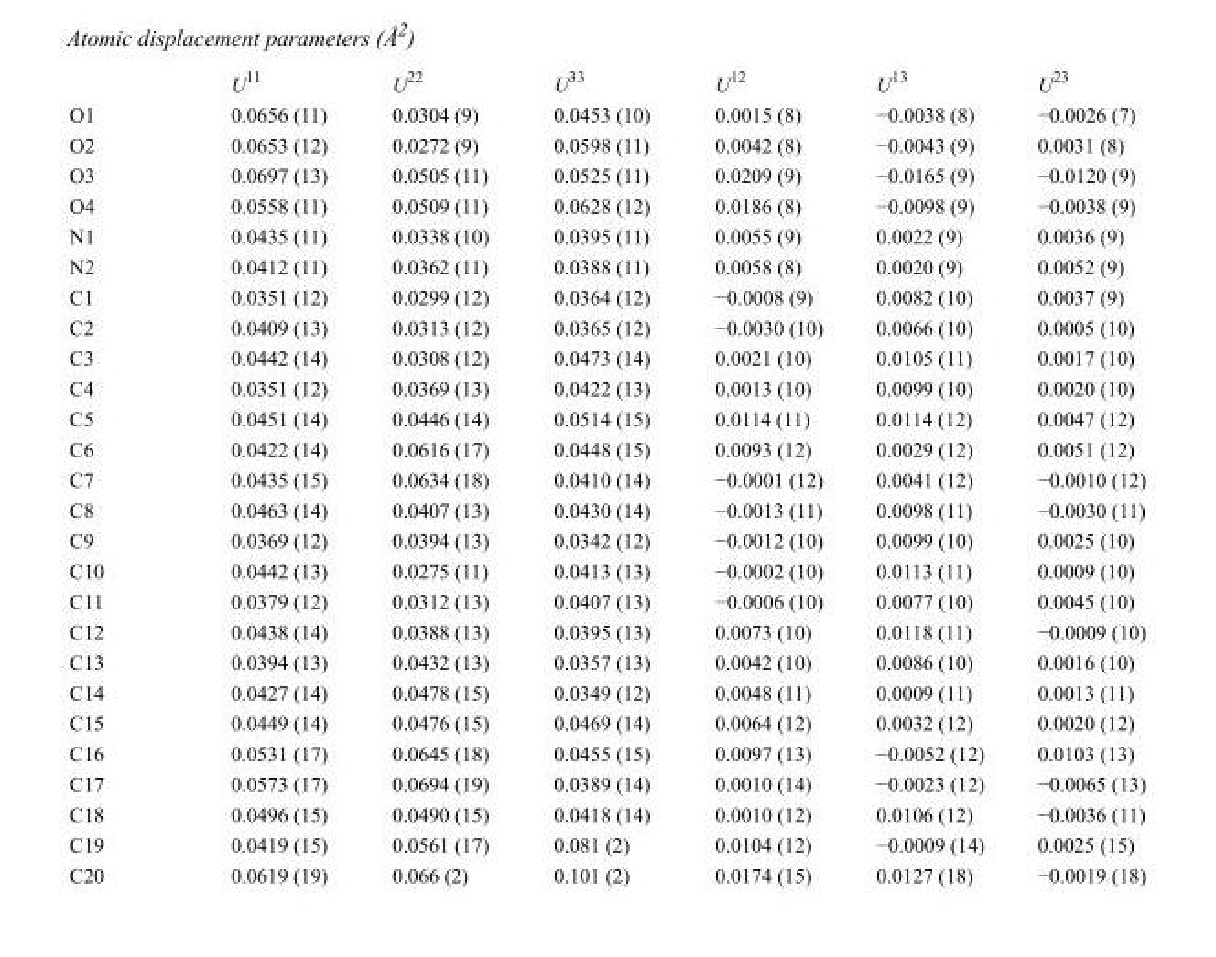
<table><thead><tr><td></td><td>U<sup>11</sup></td><td>U<sup>22</sup></td><td>U<sup>33</sup></td><td>U<sup>12</sup></td><td>U<sup>13</sup></td><td>U<sup>23</sup></td></tr></thead><tbody><tr><td>O1</td><td>0.0656 (11)</td><td>0.0304 (9)</td><td>0.0453 (10)</td><td>0.0015 (8)</td><td>−0.0038 (8)</td><td>−0.0026 (7)</td></tr><tr><td>O2</td><td>0.0653 (12)</td><td>0.0272 (9)</td><td>0.0598 (11)</td><td>0.0042 (8)</td><td>−0.0043 (9)</td><td>0.0031 (8)</td></tr><tr><td>O3</td><td>0.0697 (13)</td><td>0.0505 (11)</td><td>0.0525 (11)</td><td>0.0209 (9)</td><td>−0.0165 (9)</td><td>−0.0120 (9)</td></tr><tr><td>O4</td><td>0.0558 (11)</td><td>0.0509 (11)</td><td>0.0628 (12)</td><td>0.0186 (8)</td><td>−0.0098 (9)</td><td>−0.0038 (9)</td></tr><tr><td>N1</td><td>0.0435 (11)</td><td>0.0338 (10)</td><td>0.0395 (11)</td><td>0.0055 (9)</td><td>0.0022 (9)</td><td>0.0036 (9)</td></tr><tr><td>N2</td><td>0.0412 (11)</td><td>0.0362 (11)</td><td>0.0388 (11)</td><td>0.0058 (8)</td><td>0.0020 (9)</td><td>0.0052 (9)</td></tr><tr><td>C1</td><td>0.0351 (12)</td><td>0.0299 (12)</td><td>0.0364 (12)</td><td>−0.0008 (9)</td><td>0.0082 (10)</td><td>0.0037 (9)</td></tr><tr><td>C2</td><td>0.0409 (13)</td><td>0.0313 (12)</td><td>0.0365 (12)</td><td>−0.0030 (10)</td><td>0.0066 (10)</td><td>0.0005 (10)</td></tr><tr><td>C3</td><td>0.0442 (14)</td><td>0.0308 (12)</td><td>0.0473 (14)</td><td>0.0021 (10)</td><td>0.0105 (11)</td><td>0.0017 (10)</td></tr><tr><td>C4</td><td>0.0351 (12)</td><td>0.0369 (13)</td><td>0.0422 (13)</td><td>0.0013 (10)</td><td>0.0099 (10)</td><td>0.0020 (10)</td></tr><tr><td>C5</td><td>0.0451 (14)</td><td>0.0446 (14)</td><td>0.0514 (15)</td><td>0.0114 (11)</td><td>0.0114 (12)</td><td>0.0047 (12)</td></tr><tr><td>C6</td><td>0.0422 (14)</td><td>0.0616 (17)</td><td>0.0448 (15)</td><td>0.0093 (12)</td><td>0.0029 (12)</td><td>0.0051 (12)</td></tr><tr><td>C7</td><td>0.0435 (15)</td><td>0.0634 (18)</td><td>0.0410 (14)</td><td>−0.0001 (12)</td><td>0.0041 (12)</td><td>−0.0010 (12)</td></tr><tr><td>C8</td><td>0.0463 (14)</td><td>0.0407 (13)</td><td>0.0430 (14)</td><td>−0.0013 (11)</td><td>0.0098 (11)</td><td>−0.0030 (11)</td></tr><tr><td>C9</td><td>0.0369 (12)</td><td>0.0394 (13)</td><td>0.0342 (12)</td><td>−0.0012 (10)</td><td>0.0099 (10)</td><td>0.0025 (10)</td></tr><tr><td>C10</td><td>0.0442 (13)</td><td>0.0275 (11)</td><td>0.0413 (13)</td><td>−0.0002 (10)</td><td>0.0113 (11)</td><td>0.0009 (10)</td></tr><tr><td>C11</td><td>0.0379 (12)</td><td>0.0312 (13)</td><td>0.0407 (13)</td><td>−0.0006 (10)</td><td>0.0077 (10)</td><td>0.0045 (10)</td></tr><tr><td>C12</td><td>0.0438 (14)</td><td>0.0388 (13)</td><td>0.0395 (13)</td><td>0.0073 (10)</td><td>0.0118 (11)</td><td>−0.0009 (10)</td></tr><tr><td>C13</td><td>0.0394 (13)</td><td>0.0432 (13)</td><td>0.0357 (13)</td><td>0.0042 (10)</td><td>0.0086 (10)</td><td>0.0016 (10)</td></tr><tr><td>C14</td><td>0.0427 (14)</td><td>0.0478 (15)</td><td>0.0349 (12)</td><td>0.0048 (11)</td><td>0.0009 (11)</td><td>0.0013 (11)</td></tr><tr><td>C15</td><td>0.0449 (14)</td><td>0.0476 (15)</td><td>0.0469 (14)</td><td>0.0064 (12)</td><td>0.0032 (12)</td><td>0.0020 (12)</td></tr><tr><td>C16</td><td>0.0531 (17)</td><td>0.0645 (18)</td><td>0.0455 (15)</td><td>0.0097 (13)</td><td>−0.0052 (12)</td><td>0.0103 (13)</td></tr><tr><td>C17</td><td>0.0573 (17)</td><td>0.0694 (19)</td><td>0.0389 (14)</td><td>0.0010 (14)</td><td>−0.0023 (12)</td><td>−0.0065 (13)</td></tr><tr><td>C18</td><td>0.0496 (15)</td><td>0.0490 (15)</td><td>0.0418 (14)</td><td>0.0010 (12)</td><td>0.0106 (12)</td><td>−0.0036 (11)</td></tr><tr><td>C19</td><td>0.0419 (15)</td><td>0.0561 (17)</td><td>0.081 (2)</td><td>0.0104 (12)</td><td>−0.0009 (14)</td><td>0.0025 (15)</td></tr><tr><td>C20</td><td>0.0619 (19)</td><td>0.066 (2)</td><td>0.101 (2)</td><td>0.0174 (15)</td><td>0.0127 (18)</td><td>−0.0019 (18)</td></tr></tbody></table>